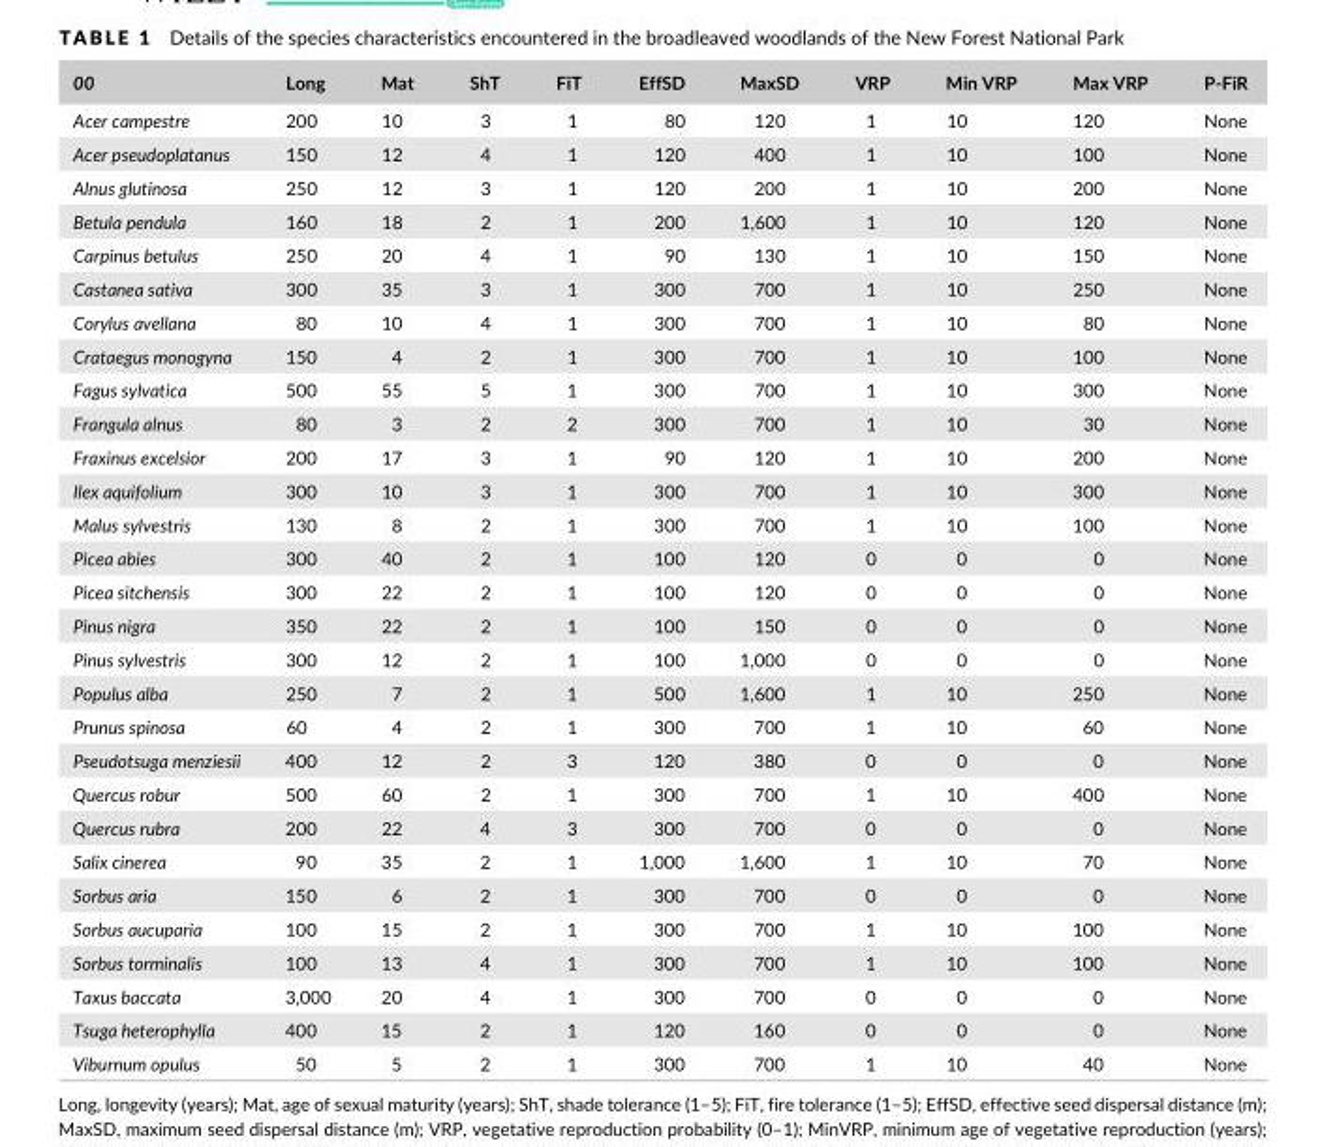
<table><thead><tr><td>00</td><td>Long</td><td>Mat</td><td>ShT</td><td>FiT</td><td>EffSD</td><td>MaxSD</td><td>VRP</td><td>Min VRP</td><td>Max VRP</td><td>P- FiR</td></tr></thead><tbody><tr><td>Acer campestre</td><td>200</td><td>10</td><td>3</td><td>1</td><td>80</td><td>120</td><td>1</td><td>10</td><td>120</td><td>None</td></tr><tr><td>Acer pseudoplatanus</td><td>150</td><td>12</td><td>4</td><td>1</td><td>120</td><td>400</td><td>1</td><td>10</td><td>100</td><td>None</td></tr><tr><td>Alnus glutinosa</td><td>250</td><td>12</td><td>3</td><td>1</td><td>120</td><td>200</td><td>1</td><td>10</td><td>200</td><td>None</td></tr><tr><td>Betula pendula</td><td>160</td><td>18</td><td>2</td><td>1</td><td>200</td><td>1,600</td><td>1</td><td>10</td><td>120</td><td>None</td></tr><tr><td>Carpinus betulus</td><td>250</td><td>20</td><td>4</td><td>1</td><td>90</td><td>130</td><td>1</td><td>10</td><td>150</td><td>None</td></tr><tr><td>Castanea sativa</td><td>300</td><td>35</td><td>3</td><td>1</td><td>300</td><td>700</td><td>1</td><td>10</td><td>250</td><td>None</td></tr><tr><td>Corylus avellana</td><td>80</td><td>10</td><td>4</td><td>1</td><td>300</td><td>700</td><td>1</td><td>10</td><td>80</td><td>None</td></tr><tr><td>Crataegus monogyna</td><td>150</td><td>4</td><td>2</td><td>1</td><td>300</td><td>700</td><td>1</td><td>10</td><td>100</td><td>None</td></tr><tr><td>Fagus sylvatica</td><td>500</td><td>55</td><td>5</td><td>1</td><td>300</td><td>700</td><td>1</td><td>10</td><td>300</td><td>None</td></tr><tr><td>Frangula alnus</td><td>80</td><td>3</td><td>2</td><td>2</td><td>300</td><td>700</td><td>1</td><td>10</td><td>30</td><td>None</td></tr><tr><td>Fraxinus excelsior</td><td>200</td><td>17</td><td>3</td><td>1</td><td>90</td><td>120</td><td>1</td><td>10</td><td>200</td><td>None</td></tr><tr><td>Ilex aquifolium</td><td>300</td><td>10</td><td>3</td><td>1</td><td>300</td><td>700</td><td>1</td><td>10</td><td>300</td><td>None</td></tr><tr><td>Malus sylvestris</td><td>130</td><td>8</td><td>2</td><td>1</td><td>300</td><td>700</td><td>1</td><td>10</td><td>100</td><td>None</td></tr><tr><td>Picea abies</td><td>300</td><td>40</td><td>2</td><td>1</td><td>100</td><td>120</td><td>0</td><td>0</td><td>0</td><td>None</td></tr><tr><td>Picea sitchensis</td><td>300</td><td>22</td><td>2</td><td>1</td><td>100</td><td>120</td><td>0</td><td>0</td><td>0</td><td>None</td></tr><tr><td>Pinus nigra</td><td>350</td><td>22</td><td>2</td><td>1</td><td>100</td><td>150</td><td>0</td><td>0</td><td>0</td><td>None</td></tr><tr><td>Pinus sylvestris</td><td>300</td><td>12</td><td>2</td><td>1</td><td>100</td><td>1,000</td><td>0</td><td>0</td><td>0</td><td>None</td></tr><tr><td>Populus alba</td><td>250</td><td>7</td><td>2</td><td>1</td><td>500</td><td>1,600</td><td>1</td><td>10</td><td>250</td><td>None</td></tr><tr><td>Prunus spinosa</td><td>60</td><td>4</td><td>2</td><td>1</td><td>300</td><td>700</td><td>1</td><td>10</td><td>60</td><td>None</td></tr><tr><td>Pseudotsuga menziesii</td><td>400</td><td>12</td><td>2</td><td>3</td><td>120</td><td>380</td><td>0</td><td>0</td><td>0</td><td>None</td></tr><tr><td>Quercus robur</td><td>500</td><td>60</td><td>2</td><td>1</td><td>300</td><td>700</td><td>1</td><td>10</td><td>400</td><td>None</td></tr><tr><td>Quercus rubra</td><td>200</td><td>22</td><td>4</td><td>3</td><td>300</td><td>700</td><td>0</td><td>0</td><td>0</td><td>None</td></tr><tr><td>Salix cinerea</td><td>90</td><td>35</td><td>2</td><td>1</td><td>1,000</td><td>1,600</td><td>1</td><td>10</td><td>70</td><td>None</td></tr><tr><td>Sorbus aria</td><td>150</td><td>6</td><td>2</td><td>1</td><td>300</td><td>700</td><td>0</td><td>0</td><td>0</td><td>None</td></tr><tr><td>Sorbus aucuparia</td><td>100</td><td>15</td><td>2</td><td>1</td><td>300</td><td>700</td><td>1</td><td>10</td><td>100</td><td>None</td></tr><tr><td>Sorbus torminalis</td><td>100</td><td>13</td><td>4</td><td>1</td><td>300</td><td>700</td><td>1</td><td>10</td><td>100</td><td>None</td></tr><tr><td>Taxus baccata</td><td>3,000</td><td>20</td><td>4</td><td>1</td><td>300</td><td>700</td><td>0</td><td>0</td><td>0</td><td>None</td></tr><tr><td>Tsuga heterophylla</td><td>400</td><td>15</td><td>2</td><td>1</td><td>120</td><td>160</td><td>0</td><td>0</td><td>0</td><td>None</td></tr><tr><td>Viburnum opulus</td><td>50</td><td>5</td><td>2</td><td>1</td><td>300</td><td>700</td><td>1</td><td>10</td><td>40</td><td>None</td></tr></tbody></table>